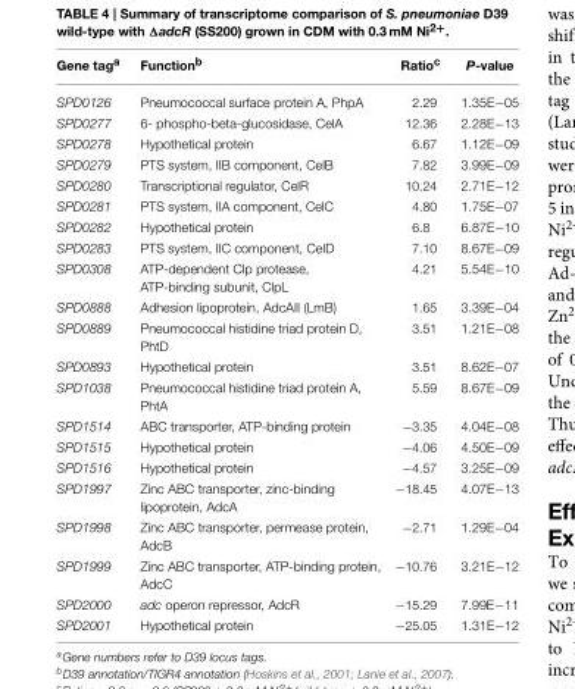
<table><thead><tr><td>Gene tag<sup>a</sup></td><td>Function<sup>b</sup></td><td>Ratio<sup>c</sup></td><td>P-value</td></tr></thead><tbody><tr><td>SPD0126</td><td>Pneumococcal surface protein A, PhpA</td><td>2.29</td><td>1.35E−05</td></tr><tr><td>SPD0277</td><td>6- phospho-beta-glucosidase, CelA</td><td>12.36</td><td>2.28E−13</td></tr><tr><td>SPD0278</td><td>Hypothetical protein</td><td>6.67</td><td>1.12E−09</td></tr><tr><td>SPD0279</td><td>PTS system, IIB component, CelB</td><td>7.82</td><td>3.99E−09</td></tr><tr><td>SPD0280</td><td>Transcriptional regulator, CelR</td><td>10.24</td><td>2.71E−12</td></tr><tr><td>SPD0281</td><td>PTS system, IIA component, CelC</td><td>4.80</td><td>1.75E−07</td></tr><tr><td>SPD0282</td><td>Hypothetical protein</td><td>6.8</td><td>6.87E−10</td></tr><tr><td>SPD0283</td><td>PTS system, IIC component, CelD</td><td>7.10</td><td>8.67E−09</td></tr><tr><td>SPD0308</td><td>ATP-dependent Clp protease, ATP-binding subunit, ClpL</td><td>4.21</td><td>5.54E−10</td></tr><tr><td>SPD0888</td><td>Adhesion lipoprotein, AdcAII (LmB)</td><td>1.65</td><td>3.39E−04</td></tr><tr><td>SPD0889</td><td>Pneumococcal histidine triad protein D, PhtD</td><td>3.51</td><td>1.21E−08</td></tr><tr><td>SPD0893</td><td>Hypothetical protein</td><td>3.51</td><td>8.62E−07</td></tr><tr><td>SPD1038</td><td>Pneumococcal histidine triad protein A, PhtA</td><td>5.59</td><td>8.67E−09</td></tr><tr><td>SPD1514</td><td>ABC transporter, ATP-binding protein</td><td>−3.35</td><td>4.04E−08</td></tr><tr><td>SPD1515</td><td>Hypothetical protein</td><td>−4.06</td><td>4.50E−09</td></tr><tr><td>SPD1516</td><td>Hypothetical protein</td><td>−4.57</td><td>3.25E−09</td></tr><tr><td>SPD1997</td><td>Zinc ABC transporter, zinc-binding lipoprotein, AdcA</td><td>−18.45</td><td>4.07E−13</td></tr><tr><td>SPD1998</td><td>Zinc ABC transporter, permease protein, AdcB</td><td>−2.71</td><td>1.29E−04</td></tr><tr><td>SPD1999</td><td>Zinc ABC transporter, ATP-binding protein, AdcC</td><td>−10.76</td><td>3.21E−12</td></tr><tr><td>SPD2000</td><td>adc operon repressor, AdcR</td><td>−15.29</td><td>7.99E−11</td></tr><tr><td>SPD2001</td><td>Hypothetical protein</td><td>−25.05</td><td>1.31E−12</td></tr></tbody></table>